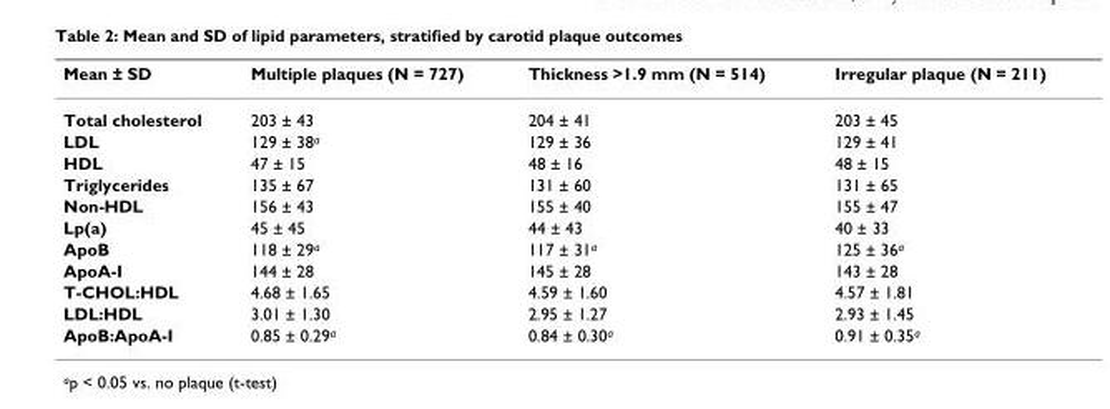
<table><thead><tr><td>Mean ± SD</td><td>Multiple plaques (N = 727)</td><td>Thickness &gt;1.9 mm (N = 514)</td><td>Irregular plaque (N = 211)</td></tr></thead><tbody><tr><td>Total cholesterol</td><td>203 ± 43</td><td>204 ± 41</td><td>203 ± 45</td></tr><tr><td>LDL</td><td>129 ± 38<sup>a</sup></td><td>129 ± 36</td><td>129 ± 41</td></tr><tr><td>HDL</td><td>47 ± 15</td><td>48 ± 16</td><td>48 ± 15</td></tr><tr><td>Triglycerides</td><td>135 ± 67</td><td>131 ± 60</td><td>131 ± 65</td></tr><tr><td>Non-HDL</td><td>156 ± 43</td><td>155 ± 40</td><td>155 ± 47</td></tr><tr><td>Lp(a)</td><td>45 ± 45</td><td>44 ± 43</td><td>40 ± 33</td></tr><tr><td>ApoB</td><td>118 ± 29<sup>a</sup></td><td>117 ± 31<sup>a</sup></td><td>125 ± 36<sup>a</sup></td></tr><tr><td>ApoA-I</td><td>144 ± 28</td><td>145 ± 28</td><td>143 ± 28</td></tr><tr><td>T-CHOL:HDL</td><td>4.68 ± 1.65</td><td>4.59 ± 1.60</td><td>4.57 ± 1.81</td></tr><tr><td>LDL:HDL</td><td>3.01 ± 1.30</td><td>2.95 ± 1.27</td><td>2.93 ± 1.45</td></tr><tr><td>ApoB:ApoA-I</td><td>0.85 ± 0.29<sup>a</sup></td><td>0.84 ± 0.30<sup>a</sup></td><td>0.91 ± 0.35<sup>a</sup></td></tr></tbody></table>